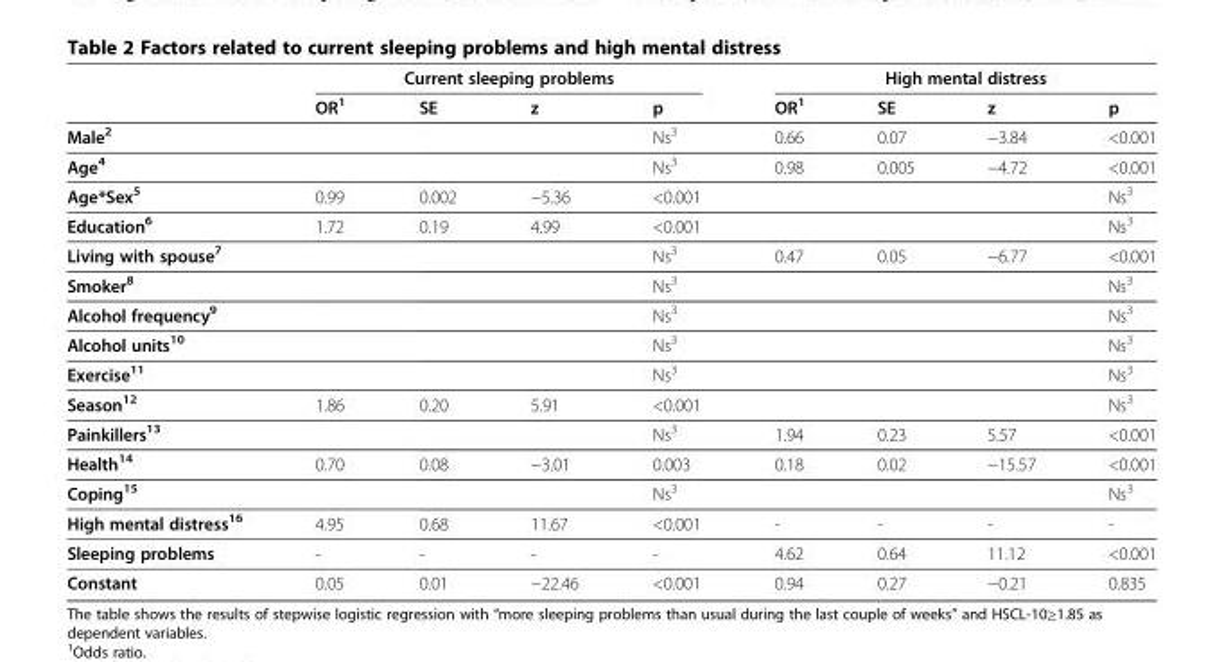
<table><thead><tr><td rowspan="2"></td><td colspan="4">Current sleeping problems</td><td colspan="4">High mental distress</td></tr><tr><td>OR<sup>1</sup></td><td>SE</td><td>z</td><td>p</td><td>OR<sup>1</sup></td><td>SE</td><td>z</td><td>p</td></tr></thead><tbody><tr><td>Male<sup>2</sup></td><td></td><td></td><td></td><td>Ns<sup>3</sup></td><td>0.66</td><td>0.07</td><td>−3.84</td><td>&lt;0.001</td></tr><tr><td>Age<sup>4</sup></td><td></td><td></td><td></td><td>Ns<sup>3</sup></td><td>0.98</td><td>0.005</td><td>−4.72</td><td>&lt;0.001</td></tr><tr><td>Age*Sex<sup>5</sup></td><td>0.99</td><td>0.002</td><td>−5.36</td><td>&lt;0.001</td><td></td><td></td><td></td><td>Ns<sup>3</sup></td></tr><tr><td>Education<sup>6</sup></td><td>1.72</td><td>0.19</td><td>4.99</td><td>&lt;0.001</td><td></td><td></td><td></td><td>Ns<sup>3</sup></td></tr><tr><td>Living with spouse<sup>7</sup></td><td></td><td></td><td></td><td>Ns<sup>3</sup></td><td>0.47</td><td>0.05</td><td>−6.77</td><td>&lt;0.001</td></tr><tr><td>Smoker<sup>8</sup></td><td></td><td></td><td></td><td>Ns<sup>3</sup></td><td></td><td></td><td></td><td>Ns<sup>3</sup></td></tr><tr><td>Alcohol frequency<sup>9</sup></td><td></td><td></td><td></td><td>Ns<sup>3</sup></td><td></td><td></td><td></td><td>Ns<sup>3</sup></td></tr><tr><td>Alcohol units<sup>10</sup></td><td></td><td></td><td></td><td>Ns<sup>3</sup></td><td></td><td></td><td></td><td>Ns<sup>3</sup></td></tr><tr><td>Exercise<sup>11</sup></td><td></td><td></td><td></td><td>Ns<sup>3</sup></td><td></td><td></td><td></td><td>Ns<sup>3</sup></td></tr><tr><td>Season<sup>12</sup></td><td>1.86</td><td>0.20</td><td>5.91</td><td>&lt;0.001</td><td></td><td></td><td></td><td>Ns<sup>3</sup></td></tr><tr><td>Painkillers<sup>13</sup></td><td></td><td></td><td></td><td>Ns<sup>3</sup></td><td>1.94</td><td>0.23</td><td>5.57</td><td>&lt;0.001</td></tr><tr><td>Health<sup>14</sup></td><td>0.70</td><td>0.08</td><td>−3.01</td><td>0.003</td><td>0.18</td><td>0.02</td><td>−15.57</td><td>&lt;0.001</td></tr><tr><td>Coping<sup>15</sup></td><td></td><td></td><td></td><td>Ns<sup>3</sup></td><td></td><td></td><td></td><td>Ns<sup>3</sup></td></tr><tr><td>High mental distress<sup>16</sup></td><td>4.95</td><td>0.68</td><td>11.67</td><td>&lt;0.001</td><td>-</td><td>-</td><td>-</td><td>-</td></tr><tr><td>Sleeping problems</td><td>-</td><td>-</td><td>-</td><td>-</td><td>4.62</td><td>0.64</td><td>11.12</td><td>&lt;0.001</td></tr><tr><td>Constant</td><td>0.05</td><td>0.01</td><td>−22.46</td><td>&lt;0.001</td><td>0.94</td><td>0.27</td><td>−0.21</td><td>0.835</td></tr></tbody></table>